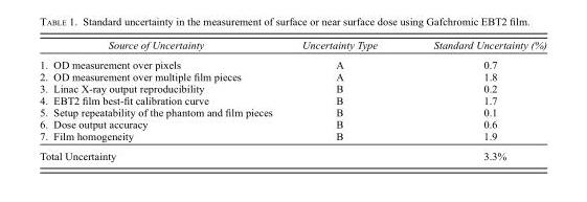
<table><thead><tr><td>Source of Uncertainty</td><td>Uncertainty Type</td><td>Standard Uncertainty (%)</td></tr></thead><tbody><tr><td>1. OD measurement over pixels</td><td>A</td><td>0.7</td></tr><tr><td>2. OD measurement over multiple film pieces</td><td>A</td><td>1.8</td></tr><tr><td>3. Linac X-ray output reproducibility</td><td>B</td><td>0.2</td></tr><tr><td>4. EBT2 film best-fit calibration curve</td><td>B</td><td>1.7</td></tr><tr><td>5. Setup repeatability of the phantom and film pieces</td><td>B</td><td>0.1</td></tr><tr><td>6. Dose output accuracy</td><td>B</td><td>0.6</td></tr><tr><td>7. Film homogeneity</td><td>B</td><td>1.9</td></tr><tr><td>Total Uncertainty</td><td></td><td>3.3%</td></tr></tbody></table>